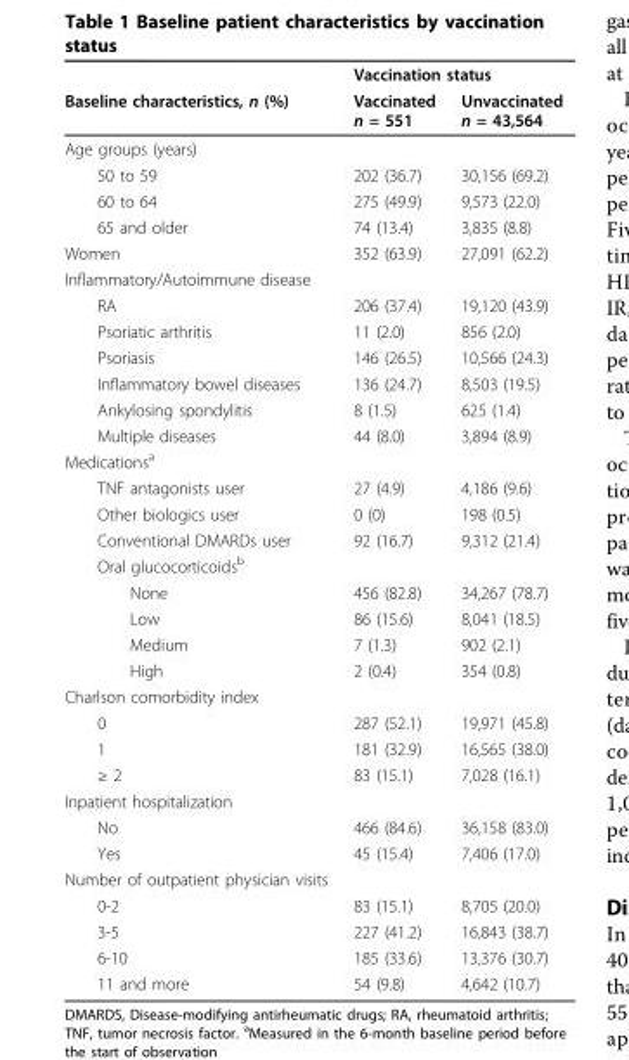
<table><thead><tr><td rowspan="2">Baseline characteristics, n (%)</td><td colspan="2">Vaccination status</td></tr><tr><td>Vaccinated n = 551</td><td>Unvaccinated n = 43,564</td></tr></thead><tbody><tr><td colspan="3">Age groups (years)</td></tr><tr><td>50 to 59</td><td>202 (36.7)</td><td>30,156 (69.2)</td></tr><tr><td>60 to 64</td><td>275 (49.9)</td><td>9,573 (22.0)</td></tr><tr><td>65 and older</td><td>74 (13.4)</td><td>3,835 (8.8)</td></tr><tr><td>Women</td><td>352 (63.9)</td><td>27,091 (62.2)</td></tr><tr><td colspan="3">Inflammatory/Autoimmune disease</td></tr><tr><td>RA</td><td>206 (37.4)</td><td>19,120 (43.9)</td></tr><tr><td>Psoriatic arthritis</td><td>11 (2.0)</td><td>856 (2.0)</td></tr><tr><td>Psoriasis</td><td>146 (26.5)</td><td>10,566 (24.3)</td></tr><tr><td>Inflammatory bowel diseases</td><td>136 (24.7)</td><td>8,503 (19.5)</td></tr><tr><td>Ankylosing spondylitis</td><td>8 (1.5)</td><td>625 (1.4)</td></tr><tr><td>Multiple diseases</td><td>44 (8.0)</td><td>3,894 (8.9)</td></tr><tr><td colspan="3">Medications<sup>a</sup></td></tr><tr><td>TNF antagonists user</td><td>27 (4.9)</td><td>4,186 (9.6)</td></tr><tr><td>Other biologics user</td><td>0 (0)</td><td>198 (0.5)</td></tr><tr><td>Conventional DMARDs user</td><td>92 (16.7)</td><td>9,312 (21.4)</td></tr><tr><td colspan="3">Oral glucocorticoids<sup>b</sup></td></tr><tr><td>None</td><td>456 (82.8)</td><td>34,267 (78.7)</td></tr><tr><td>Low</td><td>86 (15.6)</td><td>8,041 (18.5)</td></tr><tr><td>Medium</td><td>7 (1.3)</td><td>902 (2.1)</td></tr><tr><td>High</td><td>2 (0.4)</td><td>354 (0.8)</td></tr><tr><td colspan="3">Charlson comorbidity index</td></tr><tr><td>0</td><td>287 (52.1)</td><td>19,971 (45.8)</td></tr><tr><td>1</td><td>181 (32.9)</td><td>16,565 (38.0)</td></tr><tr><td>≥ 2</td><td>83 (15.1)</td><td>7,028 (16.1)</td></tr><tr><td colspan="3">Inpatient hospitalization</td></tr><tr><td>No</td><td>466 (84.6)</td><td>36,158 (83.0)</td></tr><tr><td>Yes</td><td>45 (15.4)</td><td>7,406 (17.0)</td></tr><tr><td colspan="3">Number of outpatient physician visits</td></tr><tr><td>0-2</td><td>83 (15.1)</td><td>8,705 (20.0)</td></tr><tr><td>3-5</td><td>227 (41.2)</td><td>16,843 (38.7)</td></tr><tr><td>6-10</td><td>185 (33.6)</td><td>13,376 (30.7)</td></tr><tr><td>11 and more</td><td>54 (9.8)</td><td>4,642 (10.7)</td></tr></tbody></table>